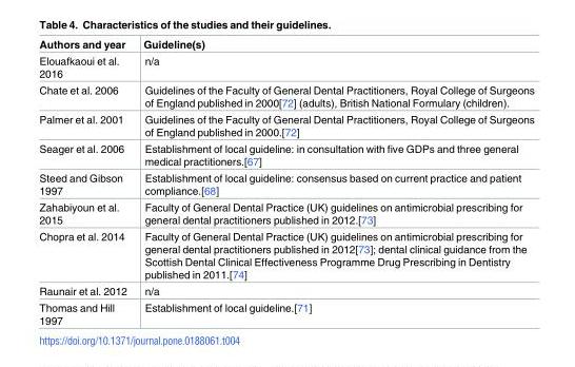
<table><thead><tr><td>Authors and year</td><td>Guideline(s)</td></tr></thead><tbody><tr><td>Elouafkaoui et al. 2016</td><td>n/a</td></tr><tr><td>Chate et al. 2006</td><td>Guidelines of the Faculty of General Dental Practitioners, Royal College of Surgeons of England published in 2000[72] (adults), British National Formulary (children).</td></tr><tr><td>Palmer et al. 2001</td><td>Guidelines of the Faculty of General Dental Practitioners, Royal College of Surgeons of England published in 2000.[72]</td></tr><tr><td>Seager et al. 2006</td><td>Establishment of local guideline: in consultation with five GDPs and three general medical practitioners.[67]</td></tr><tr><td>Steed and Gibson 1997</td><td>Establishment of local guideline: consensus based on current practice and patient compliance.[68]</td></tr><tr><td>Zahabiyoun et al. 2015</td><td>Faculty of General Dental Practice (UK) guidelines on antimicrobial prescribing for general dental practitioners published in 2012.[73]</td></tr><tr><td>Chopra et al. 2014</td><td>Faculty of General Dental Practice (UK) guidelines on antimicrobial prescribing for general dental practitioners published in 2012[73]; dental clinical guidance from the Scottish Dental Clinical Effectiveness Programme Drug Prescribing in Dentistry published in 2011.[74]</td></tr><tr><td>Raunair et al. 2012</td><td>n/a</td></tr><tr><td>Thomas and Hill 1997</td><td>Establishment of local guideline.[71]</td></tr></tbody></table>